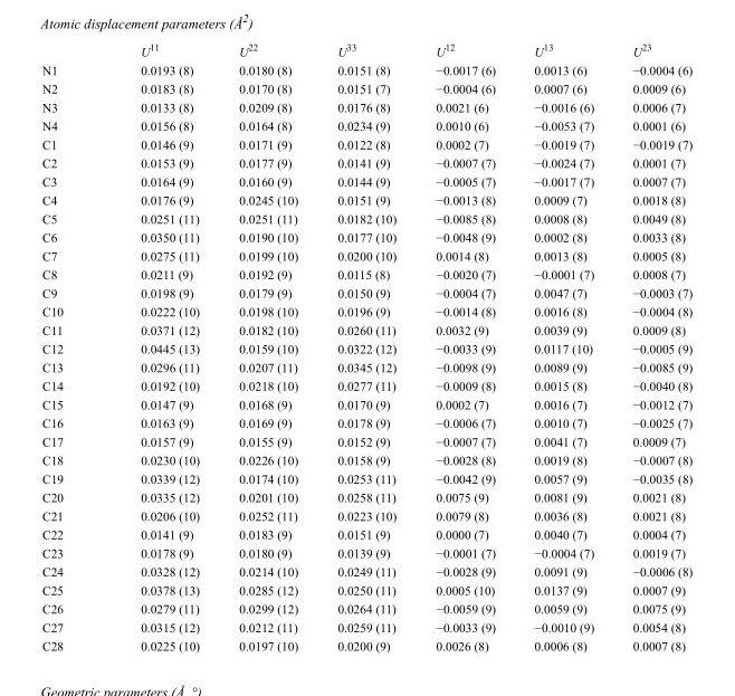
<table><thead><tr><td></td><td>U<sup>11</sup></td><td>U<sup>22</sup></td><td>U<sup>33</sup></td><td>U<sup>12</sup></td><td>U<sup>13</sup></td><td>U<sup>23</sup></td></tr></thead><tbody><tr><td>N1</td><td>0.0193 (8)</td><td>0.0180 (8)</td><td>0.0151 (8)</td><td>−0.0017 (6)</td><td>0.0013 (6)</td><td>−0.0004 (6)</td></tr><tr><td>N2</td><td>0.0183 (8)</td><td>0.0170 (8)</td><td>0.0151 (7)</td><td>−0.0004 (6)</td><td>0.0007 (6)</td><td>0.0009 (6)</td></tr><tr><td>N3</td><td>0.0133 (8)</td><td>0.0209 (8)</td><td>0.0176 (8)</td><td>0.0021 (6)</td><td>−0.0016 (6)</td><td>0.0006 (7)</td></tr><tr><td>N4</td><td>0.0156 (8)</td><td>0.0164 (8)</td><td>0.0234 (9)</td><td>0.0010 (6)</td><td>−0.0053 (7)</td><td>0.0001 (6)</td></tr><tr><td>C1</td><td>0.0146 (9)</td><td>0.0171 (9)</td><td>0.0122 (8)</td><td>0.0002 (7)</td><td>−0.0019 (7)</td><td>−0.0019 (7)</td></tr><tr><td>C2</td><td>0.0153 (9)</td><td>0.0177 (9)</td><td>0.0141 (9)</td><td>−0.0007 (7)</td><td>−0.0024 (7)</td><td>0.0001 (7)</td></tr><tr><td>C3</td><td>0.0164 (9)</td><td>0.0160 (9)</td><td>0.0144 (9)</td><td>−0.0005 (7)</td><td>−0.0017 (7)</td><td>0.0007 (7)</td></tr><tr><td>C4</td><td>0.0176 (9)</td><td>0.0245 (10)</td><td>0.0151 (9)</td><td>−0.0013 (8)</td><td>0.0009 (7)</td><td>0.0018 (8)</td></tr><tr><td>C5</td><td>0.0251 (11)</td><td>0.0251 (11)</td><td>0.0182 (10)</td><td>−0.0085 (8)</td><td>0.0008 (8)</td><td>0.0049 (8)</td></tr><tr><td>C6</td><td>0.0350 (11)</td><td>0.0190 (10)</td><td>0.0177 (10)</td><td>−0.0048 (9)</td><td>0.0002 (8)</td><td>0.0033 (8)</td></tr><tr><td>C7</td><td>0.0275 (11)</td><td>0.0199 (10)</td><td>0.0200 (10)</td><td>0.0014 (8)</td><td>0.0013 (8)</td><td>0.0005 (8)</td></tr><tr><td>C8</td><td>0.0211 (9)</td><td>0.0192 (9)</td><td>0.0115 (8)</td><td>−0.0020 (7)</td><td>−0.0001 (7)</td><td>0.0008 (7)</td></tr><tr><td>C9</td><td>0.0198 (9)</td><td>0.0179 (9)</td><td>0.0150 (9)</td><td>−0.0004 (7)</td><td>0.0047 (7)</td><td>−0.0003 (7)</td></tr><tr><td>C10</td><td>0.0222 (10)</td><td>0.0198 (10)</td><td>0.0196 (9)</td><td>−0.0014 (8)</td><td>0.0016 (8)</td><td>−0.0004 (8)</td></tr><tr><td>C11</td><td>0.0371 (12)</td><td>0.0182 (10)</td><td>0.0260 (11)</td><td>0.0032 (9)</td><td>0.0039 (9)</td><td>0.0009 (8)</td></tr><tr><td>C12</td><td>0.0445 (13)</td><td>0.0159 (10)</td><td>0.0322 (12)</td><td>−0.0033 (9)</td><td>0.0117 (10)</td><td>−0.0005 (9)</td></tr><tr><td>C13</td><td>0.0296 (11)</td><td>0.0207 (11)</td><td>0.0345 (12)</td><td>−0.0098 (9)</td><td>0.0089 (9)</td><td>−0.0085 (9)</td></tr><tr><td>C14</td><td>0.0192 (10)</td><td>0.0218 (10)</td><td>0.0277 (11)</td><td>−0.0009 (8)</td><td>0.0015 (8)</td><td>−0.0040 (8)</td></tr><tr><td>C15</td><td>0.0147 (9)</td><td>0.0168 (9)</td><td>0.0170 (9)</td><td>0.0002 (7)</td><td>0.0016 (7)</td><td>−0.0012 (7)</td></tr><tr><td>C16</td><td>0.0163 (9)</td><td>0.0169 (9)</td><td>0.0178 (9)</td><td>−0.0006 (7)</td><td>0.0010 (7)</td><td>−0.0025 (7)</td></tr><tr><td>C17</td><td>0.0157 (9)</td><td>0.0155 (9)</td><td>0.0152 (9)</td><td>−0.0007 (7)</td><td>0.0041 (7)</td><td>0.0009 (7)</td></tr><tr><td>C18</td><td>0.0230 (10)</td><td>0.0226 (10)</td><td>0.0158 (9)</td><td>−0.0028 (8)</td><td>0.0019 (8)</td><td>−0.0007 (8)</td></tr><tr><td>C19</td><td>0.0339 (12)</td><td>0.0174 (10)</td><td>0.0253 (11)</td><td>−0.0042 (9)</td><td>0.0057 (9)</td><td>−0.0035 (8)</td></tr><tr><td>C20</td><td>0.0335 (12)</td><td>0.0201 (10)</td><td>0.0258 (11)</td><td>0.0075 (9)</td><td>0.0081 (9)</td><td>0.0021 (8)</td></tr><tr><td>C21</td><td>0.0206 (10)</td><td>0.0252 (11)</td><td>0.0223 (10)</td><td>0.0079 (8)</td><td>0.0036 (8)</td><td>0.0021 (8)</td></tr><tr><td>C22</td><td>0.0141 (9)</td><td>0.0183 (9)</td><td>0.0151 (9)</td><td>0.0000 (7)</td><td>0.0040 (7)</td><td>0.0004 (7)</td></tr><tr><td>C23</td><td>0.0178 (9)</td><td>0.0180 (9)</td><td>0.0139 (9)</td><td>−0.0001 (7)</td><td>−0.0004 (7)</td><td>0.0019 (7)</td></tr><tr><td>C24</td><td>0.0328 (12)</td><td>0.0214 (10)</td><td>0.0249 (11)</td><td>−0.0028 (9)</td><td>0.0091 (9)</td><td>−0.0006 (8)</td></tr><tr><td>C25</td><td>0.0378 (13)</td><td>0.0285 (12)</td><td>0.0250 (11)</td><td>0.0005 (10)</td><td>0.0137 (9)</td><td>0.0007 (9)</td></tr><tr><td>C26</td><td>0.0279 (11)</td><td>0.0299 (12)</td><td>0.0264 (11)</td><td>−0.0059 (9)</td><td>0.0059 (9)</td><td>0.0075 (9)</td></tr><tr><td>C27</td><td>0.0315 (12)</td><td>0.0212 (11)</td><td>0.0259 (11)</td><td>−0.0033 (9)</td><td>−0.0010 (9)</td><td>0.0054 (8)</td></tr><tr><td>C28</td><td>0.0225 (10)</td><td>0.0197 (10)</td><td>0.0200 (9)</td><td>0.0026 (8)</td><td>0.0006 (8)</td><td>0.0007 (8)</td></tr></tbody></table>